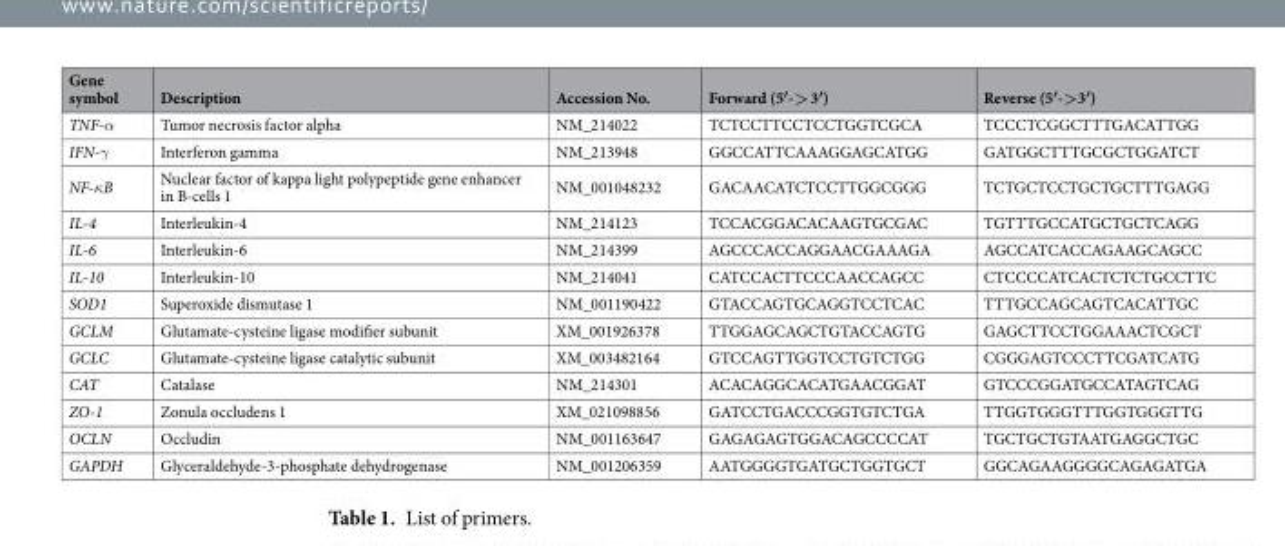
<table><thead><tr><td>Gene symbol</td><td>Description</td><td>Accession No.</td><td>Forward (5′-&gt; 3′)</td><td>Reverse (5′-&gt;3′)</td></tr></thead><tbody><tr><td>TNF-α</td><td>Tumor necrosis factor alpha</td><td>NM_214022</td><td>TCTCCTTCCTCCTGGTCGCA</td><td>TCCCTCGGCTTTGACATTGG</td></tr><tr><td>IFN-γ</td><td>Interferon gamma</td><td>NM_213948</td><td>GGCCATTCAAAGGAGCATGG</td><td>GATGGCTTTGCGCTGGATCT</td></tr><tr><td>NF-κB</td><td>Nuclear factor of kappa light polypeptide gene enhancer in B-cells 1</td><td>NM_001048232</td><td>GACAACATCTCCTTGGCGGG</td><td>TCTGCTCCTGCTGCTTTGAGG</td></tr><tr><td>IL-4</td><td>Interleukin-4</td><td>NM_214123</td><td>TCCACGGACACAAGTGCGAC</td><td>TGTTTGCCATGCTGCTCAGG</td></tr><tr><td>IL-6</td><td>Interleukin-6</td><td>NM_214399</td><td>AGCCCACCAGGAACGAAAGA</td><td>AGCCATCACCAGAAGCAGCC</td></tr><tr><td>IL-10</td><td>Interleukin-10</td><td>NM_214041</td><td>CATCCACTTCCCAACCAGCC</td><td>CTCCCCATCACTCTCTGCCTTC</td></tr><tr><td>SOD1</td><td>Superoxide dismutase 1</td><td>NM_001190422</td><td>GTACCAGTGCAGGTCCTCAC</td><td>TTTGCCAGCAGTCACATTGC</td></tr><tr><td>GCLM</td><td>Glutamate-cysteine ligase modifier subunit</td><td>XM_001926378</td><td>TTGGAGCAGCTGTACCAGTG</td><td>GAGCTTCCTGGAAACTCGCT</td></tr><tr><td>GCLC</td><td>Glutamate-cysteine ligase catalytic subunit</td><td>XM_003482164</td><td>GTCCAGTTGGTCCTGTCTGG</td><td>CGGGAGTCCCTTCGATCATG</td></tr><tr><td>CAT</td><td>Catalase</td><td>NM_214301</td><td>ACACAGGCACATGAACGGAT</td><td>GTCCCGGATGCCATAGTCAG</td></tr><tr><td>ZO-1</td><td>Zonula occludens 1</td><td>XM_021098856</td><td>GATCCTGACCCGGTGTCTGA</td><td>TTGGTGGGTTTGGTGGGTTG</td></tr><tr><td>OCLN</td><td>Occludin</td><td>NM_001163647</td><td>GAGAGAGTGGACAGCCCCAT</td><td>TGCTGCTGTAATGAGGCTGC</td></tr><tr><td>GAPDH</td><td>Glyceraldehyde-3-phosphate dehydrogenase</td><td>NM_001206359</td><td>AATGGGGTGATGCTGGTGCT</td><td>GGCAGAAGGGGCAGAGATGA</td></tr></tbody></table>